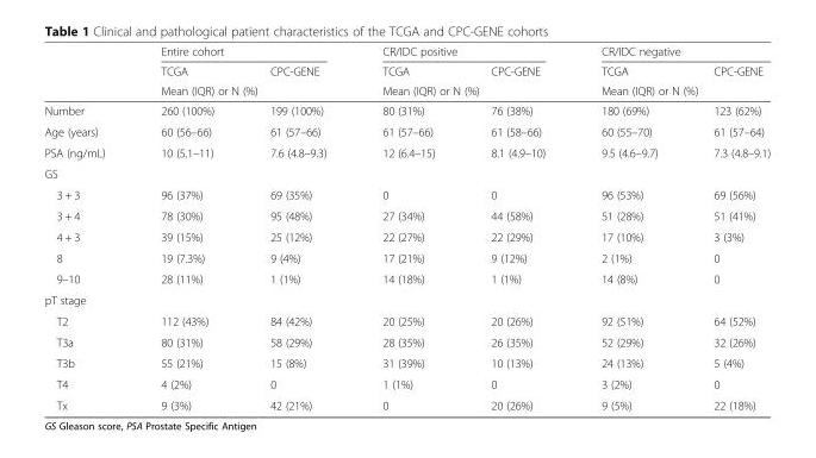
<table><thead><tr><td rowspan="3"></td><td colspan="2">Entire cohort</td><td colspan="2">CR/IDC positive</td><td colspan="2">CR/IDC negative</td></tr><tr><td>TCGA</td><td>CPC-GENE</td><td>TCGA</td><td>CPC-GENE</td><td>TCGA</td><td>CPC-GENE</td></tr><tr><td colspan="2">Mean (IQR) or N (%)</td><td colspan="2">Mean (IQR) or N (%)</td><td colspan="2">Mean (IQR) or N (%)</td></tr></thead><tbody><tr><td>Number</td><td>260 (100%)</td><td>199 (100%)</td><td>80 (31%)</td><td>76 (38%)</td><td>180 (69%)</td><td>123 (62%)</td></tr><tr><td>Age (years)</td><td>60 (56–66)</td><td>61 (57–66)</td><td>61 (57–66)</td><td>61 (58–66)</td><td>60 (55–70)</td><td>61 (57–64)</td></tr><tr><td>PSA (ng/mL)</td><td>10 (5.1–11)</td><td>7.6 (4.8–9.3)</td><td>12 (6.4–15)</td><td>8.1 (4.9–10)</td><td>9.5 (4.6–9.7)</td><td>7.3 (4.8–9.1)</td></tr><tr><td colspan="7">GS</td></tr><tr><td>3 + 3</td><td>96 (37%)</td><td>69 (35%)</td><td>0</td><td>0</td><td>96 (53%)</td><td>69 (56%)</td></tr><tr><td>3 + 4</td><td>78 (30%)</td><td>95 (48%)</td><td>27 (34%)</td><td>44 (58%)</td><td>51 (28%)</td><td>51 (41%)</td></tr><tr><td>4 + 3</td><td>39 (15%)</td><td>25 (12%)</td><td>22 (27%)</td><td>22 (29%)</td><td>17 (10%)</td><td>3 (3%)</td></tr><tr><td>8</td><td>19 (7.3%)</td><td>9 (4%)</td><td>17 (21%)</td><td>9 (12%)</td><td>2 (1%)</td><td>0</td></tr><tr><td>9–10</td><td>28 (11%)</td><td>1 (1%)</td><td>14 (18%)</td><td>1 (1%)</td><td>14 (8%)</td><td>0</td></tr><tr><td colspan="7">pT stage</td></tr><tr><td>T2</td><td>112 (43%)</td><td>84 (42%)</td><td>20 (25%)</td><td>20 (26%)</td><td>92 (51%)</td><td>64 (52%)</td></tr><tr><td>T3a</td><td>80 (31%)</td><td>58 (29%)</td><td>28 (35%)</td><td>26 (35%)</td><td>52 (29%)</td><td>32 (26%)</td></tr><tr><td>T3b</td><td>55 (21%)</td><td>15 (8%)</td><td>31 (39%)</td><td>10 (13%)</td><td>24 (13%)</td><td>5 (4%)</td></tr><tr><td>T4</td><td>4 (2%)</td><td>0</td><td>1 (1%)</td><td>0</td><td>3 (2%)</td><td>0</td></tr><tr><td>Tx</td><td>9 (3%)</td><td>42 (21%)</td><td>0</td><td>20 (26%)</td><td>9 (5%)</td><td>22 (18%)</td></tr></tbody></table>